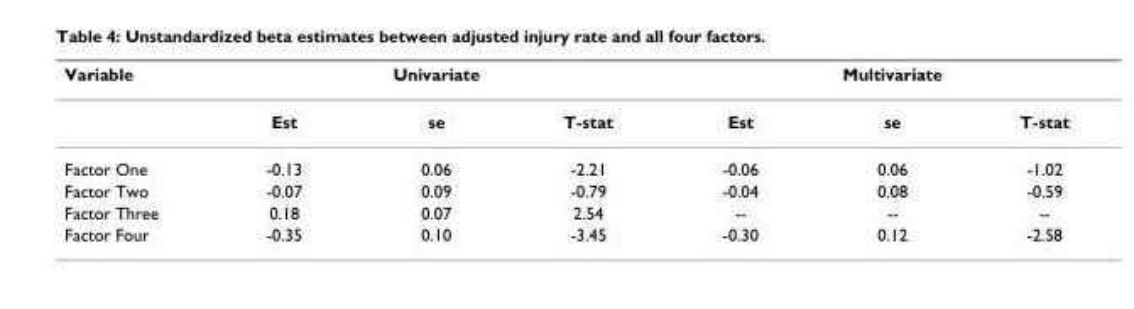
<table><thead><tr><td rowspan="2">Variable</td><td colspan="3">Univariate</td><td colspan="3">Multivariate</td></tr><tr><td>Est</td><td>se</td><td>T-stat</td><td>Est</td><td>se</td><td>T-stat</td></tr></thead><tbody><tr><td>Factor One</td><td>-0.13</td><td>0.06</td><td>-2.21</td><td>-0.06</td><td>0.06</td><td>-1.02</td></tr><tr><td>Factor Two</td><td>-0.07</td><td>0.09</td><td>-0.79</td><td>-0.04</td><td>0.08</td><td>-0.59</td></tr><tr><td>Factor Three</td><td>0.18</td><td>0.07</td><td>2.54</td><td>--</td><td>--</td><td>--</td></tr><tr><td>Factor Four</td><td>-0.35</td><td>0.10</td><td>-3.45</td><td>-0.30</td><td>0.12</td><td>-2.58</td></tr></tbody></table>